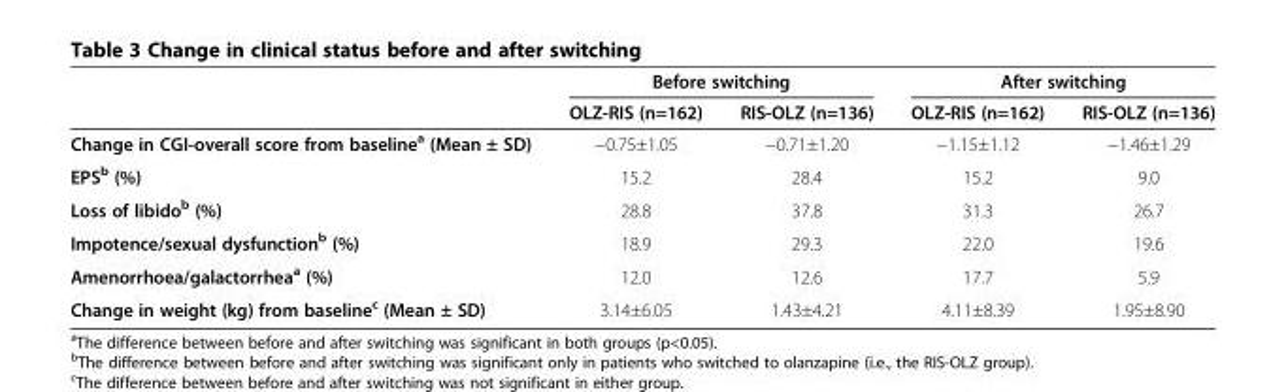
<table><thead><tr><td rowspan="2"></td><td colspan="2">Before switching</td><td colspan="2">After switching</td></tr><tr><td>OLZ-RIS (n=162)</td><td>RIS-OLZ (n=136)</td><td>OLZ-RIS (n=162)</td><td>RIS-OLZ (n=136)</td></tr></thead><tbody><tr><td>Change in CGI-overall score from baseline<sup>a</sup> (Mean ± SD)</td><td>−0.75±1.05</td><td>−0.71±1.20</td><td>−1.15±1.12</td><td>−1.46±1.29</td></tr><tr><td>EPS<sup>b</sup> (%)</td><td>15.2</td><td>28.4</td><td>15.2</td><td>9.0</td></tr><tr><td>Loss of libido<sup>b</sup> (%)</td><td>28.8</td><td>37.8</td><td>31.3</td><td>26.7</td></tr><tr><td>Impotence/sexual dysfunction<sup>b</sup> (%)</td><td>18.9</td><td>29.3</td><td>22.0</td><td>19.6</td></tr><tr><td>Amenorrhoea/galactorrhea<sup>a</sup> (%)</td><td>12.0</td><td>12.6</td><td>17.7</td><td>5.9</td></tr><tr><td>Change in weight (kg) from baseline<sup>c</sup> (Mean ± SD)</td><td>3.14±6.05</td><td>1.43±4.21</td><td>4.11±8.39</td><td>1.95±8.90</td></tr></tbody></table>